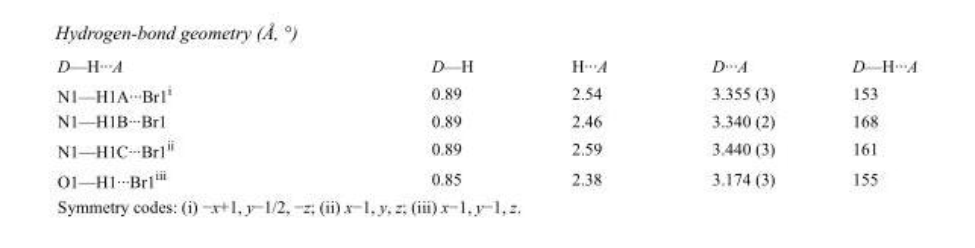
<table><tbody><tr><td>D—H···A</td><td>D—H</td><td>H···A</td><td>D···A</td><td>D—H···A</td></tr><tr><td>N1—H1A···Br1<sup>i</sup></td><td>0.89</td><td>2.54</td><td>3.355 (3)</td><td>153</td></tr><tr><td>N1—H1B···Br1</td><td>0.89</td><td>2.46</td><td>3.340 (2)</td><td>168</td></tr><tr><td>N1—H1C···Br1<sup>ii</sup></td><td>0.89</td><td>2.59</td><td>3.440 (3)</td><td>161</td></tr><tr><td>O1—H1···Br1<sup>iii</sup></td><td>0.85</td><td>2.38</td><td>3.174 (3)</td><td>155</td></tr></tbody></table>